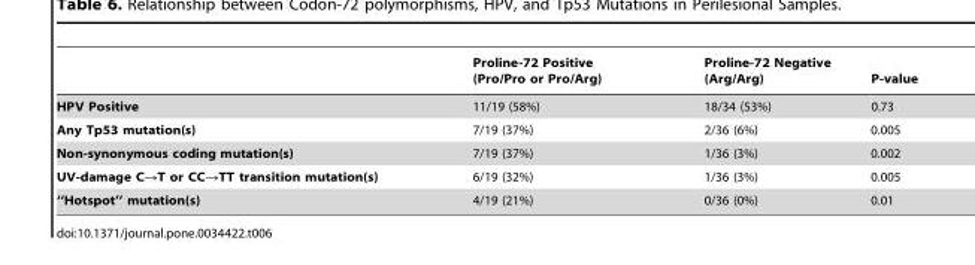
<table><thead><tr><td></td><td>Proline-72 Positive (Pro/Pro or Pro/Arg)</td><td>Proline-72 Negative (Arg/Arg)</td><td>P-value</td></tr></thead><tbody><tr><td>HPV Positive</td><td>11/19 (58%)</td><td>18/34 (53%)</td><td>0.73</td></tr><tr><td>Any Tp53 mutation(s)</td><td>7/19 (37%)</td><td>2/36 (6%)</td><td>0.005</td></tr><tr><td>Non-synonymous coding mutation(s)</td><td>7/19 (37%)</td><td>1/36 (3%)</td><td>0.002</td></tr><tr><td>UV-damage C→T or CC→TT transition mutation(s)</td><td>6/19 (32%)</td><td>1/36 (3%)</td><td>0.005</td></tr><tr><td>‘‘Hotspot’’ mutation(s)</td><td>4/19 (21%)</td><td>0/36 (0%)</td><td>0.01</td></tr></tbody></table>